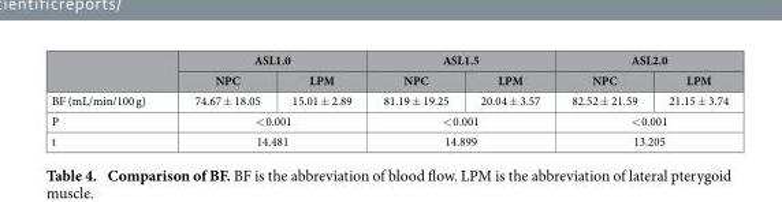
<table><thead><tr><td rowspan="2"></td><td colspan="2">ASL1.0</td><td colspan="2">ASL1.5</td><td colspan="2">ASL2.0</td></tr><tr><td>NPC</td><td>LPM</td><td>NPC</td><td>LPM</td><td>NPC</td><td>LPM</td></tr></thead><tbody><tr><td>BF (mL/min/100 g)</td><td>74.67 ± 18.05</td><td>15.01 ± 2.89</td><td>81.19 ± 19.25</td><td>20.04 ± 3.57</td><td>82.52 ± 21.59</td><td>21.15 ± 3.74</td></tr><tr><td>P</td><td colspan="2">&lt; 0.001</td><td colspan="2">&lt; 0.001</td><td colspan="2">&lt; 0.001</td></tr><tr><td>t</td><td colspan="2">14.481</td><td colspan="2">14.899</td><td colspan="2">13.205</td></tr></tbody></table>